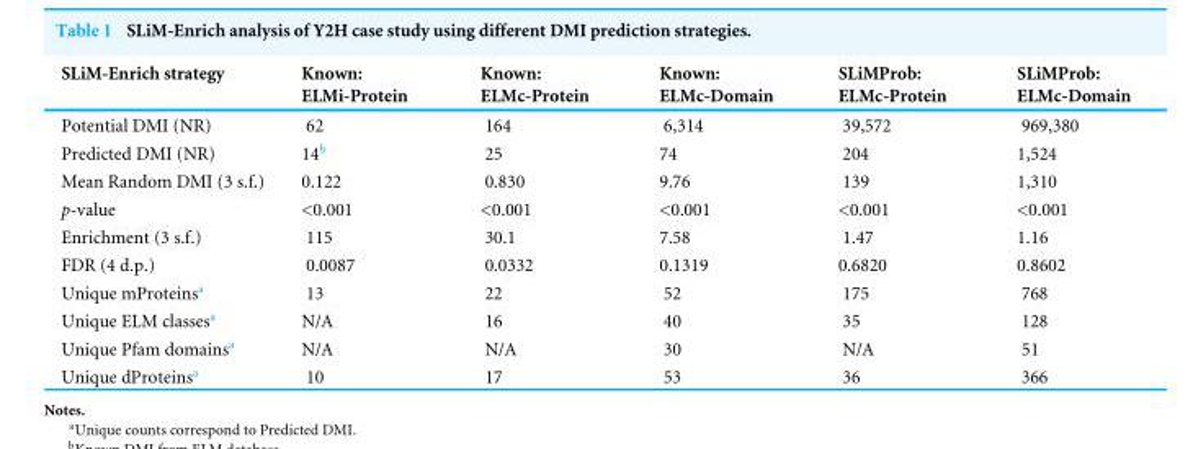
<table><thead><tr><td>SLiM-Enrich strategy</td><td>Known: ELMi-Protein</td><td>Known: ELMc-Protein</td><td>Known: ELMc-Domain</td><td>SLiMProb: ELMc-Protein</td><td>SLiMProb: ELMc-Domain</td></tr></thead><tbody><tr><td>Potential DMI (NR)</td><td>62</td><td>164</td><td>6,314</td><td>39,572</td><td>969,380</td></tr><tr><td>Predicted DMI (NR)</td><td>14<sup>b</sup></td><td>25</td><td>74</td><td>204</td><td>1,524</td></tr><tr><td>Mean Random DMI (3 s.f.)</td><td>0.122</td><td>0.830</td><td>9.76</td><td>139</td><td>1,310</td></tr><tr><td>p-value</td><td>&lt;0.001</td><td>&lt;0.001</td><td>&lt;0.001</td><td>&lt;0.001</td><td>&lt;0.001</td></tr><tr><td>Enrichment (3 s.f.)</td><td>115</td><td>30.1</td><td>7.58</td><td>1.47</td><td>1.16</td></tr><tr><td>FDR (4 d.p.)</td><td>0.0087</td><td>0.0332</td><td>0.1319</td><td>0.6820</td><td>0.8602</td></tr><tr><td>Unique mProteins<sup>a</sup></td><td>13</td><td>22</td><td>52</td><td>175</td><td>768</td></tr><tr><td>Unique ELM classes<sup>a</sup></td><td>N/A</td><td>16</td><td>40</td><td>35</td><td>128</td></tr><tr><td>Unique Pfam domains<sup>a</sup></td><td>N/A</td><td>N/A</td><td>30</td><td>N/A</td><td>51</td></tr><tr><td>Unique dProteins<sup>a</sup></td><td>10</td><td>17</td><td>53</td><td>36</td><td>366</td></tr></tbody></table>